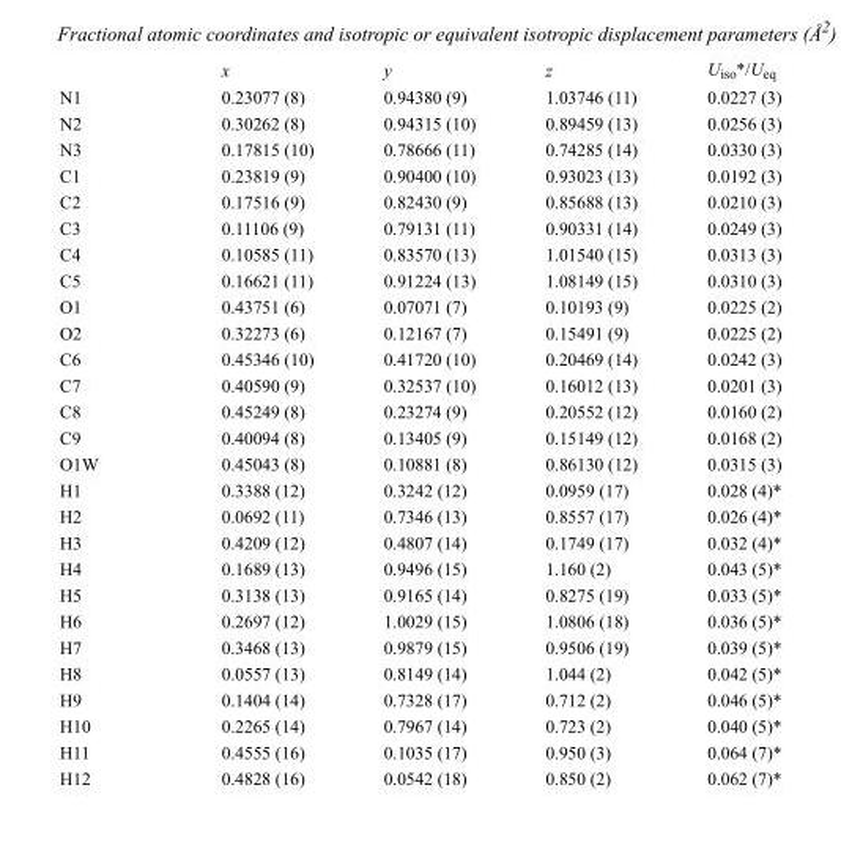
<table><thead><tr><td></td><td>x</td><td>y</td><td>z</td><td>U<sub>iso</sub>*/U<sub>eq</sub></td></tr></thead><tbody><tr><td>N1</td><td>0.23077 (8)</td><td>0.94380 (9)</td><td>1.03746 (11)</td><td>0.0227 (3)</td></tr><tr><td>N2</td><td>0.30262 (8)</td><td>0.94315 (10)</td><td>0.89459 (13)</td><td>0.0256 (3)</td></tr><tr><td>N3</td><td>0.17815 (10)</td><td>0.78666 (11)</td><td>0.74285 (14)</td><td>0.0330 (3)</td></tr><tr><td>C1</td><td>0.23819 (9)</td><td>0.90400 (10)</td><td>0.93023 (13)</td><td>0.0192 (3)</td></tr><tr><td>C2</td><td>0.17516 (9)</td><td>0.82430 (9)</td><td>0.85688 (13)</td><td>0.0210 (3)</td></tr><tr><td>C3</td><td>0.11106 (9)</td><td>0.79131 (11)</td><td>0.90331 (14)</td><td>0.0249 (3)</td></tr><tr><td>C4</td><td>0.10585 (11)</td><td>0.83570 (13)</td><td>1.01540 (15)</td><td>0.0313 (3)</td></tr><tr><td>C5</td><td>0.16621 (11)</td><td>0.91224 (13)</td><td>1.08149 (15)</td><td>0.0310 (3)</td></tr><tr><td>O1</td><td>0.43751 (6)</td><td>0.07071 (7)</td><td>0.10193 (9)</td><td>0.0225 (2)</td></tr><tr><td>O2</td><td>0.32273 (6)</td><td>0.12167 (7)</td><td>0.15491 (9)</td><td>0.0225 (2)</td></tr><tr><td>C6</td><td>0.45346 (10)</td><td>0.41720 (10)</td><td>0.20469 (14)</td><td>0.0242 (3)</td></tr><tr><td>C7</td><td>0.40590 (9)</td><td>0.32537 (10)</td><td>0.16012 (13)</td><td>0.0201 (3)</td></tr><tr><td>C8</td><td>0.45249 (8)</td><td>0.23274 (9)</td><td>0.20552 (12)</td><td>0.0160 (2)</td></tr><tr><td>C9</td><td>0.40094 (8)</td><td>0.13405 (9)</td><td>0.15149 (12)</td><td>0.0168 (2)</td></tr><tr><td>O1W</td><td>0.45043 (8)</td><td>0.10881 (8)</td><td>0.86130 (12)</td><td>0.0315 (3)</td></tr><tr><td>H1</td><td>0.3388 (12)</td><td>0.3242 (12)</td><td>0.0959 (17)</td><td>0.028 (4)*</td></tr><tr><td>H2</td><td>0.0692 (11)</td><td>0.7346 (13)</td><td>0.8557 (17)</td><td>0.026 (4)*</td></tr><tr><td>H3</td><td>0.4209 (12)</td><td>0.4807 (14)</td><td>0.1749 (17)</td><td>0.032 (4)*</td></tr><tr><td>H4</td><td>0.1689 (13)</td><td>0.9496 (15)</td><td>1.160 (2)</td><td>0.043 (5)*</td></tr><tr><td>H5</td><td>0.3138 (13)</td><td>0.9165 (14)</td><td>0.8275 (19)</td><td>0.033 (5)*</td></tr><tr><td>H6</td><td>0.2697 (12)</td><td>1.0029 (15)</td><td>1.0806 (18)</td><td>0.036 (5)*</td></tr><tr><td>H7</td><td>0.3468 (13)</td><td>0.9879 (15)</td><td>0.9506 (19)</td><td>0.039 (5)*</td></tr><tr><td>H8</td><td>0.0557 (13)</td><td>0.8149 (14)</td><td>1.044 (2)</td><td>0.042 (5)*</td></tr><tr><td>H9</td><td>0.1404 (14)</td><td>0.7328 (17)</td><td>0.712 (2)</td><td>0.046 (5)*</td></tr><tr><td>H10</td><td>0.2265 (14)</td><td>0.7967 (14)</td><td>0.723 (2)</td><td>0.040 (5)*</td></tr><tr><td>H11</td><td>0.4555 (16)</td><td>0.1035 (17)</td><td>0.950 (3)</td><td>0.064 (7)*</td></tr><tr><td>H12</td><td>0.4828 (16)</td><td>0.0542 (18)</td><td>0.850 (2)</td><td>0.062 (7)*</td></tr></tbody></table>